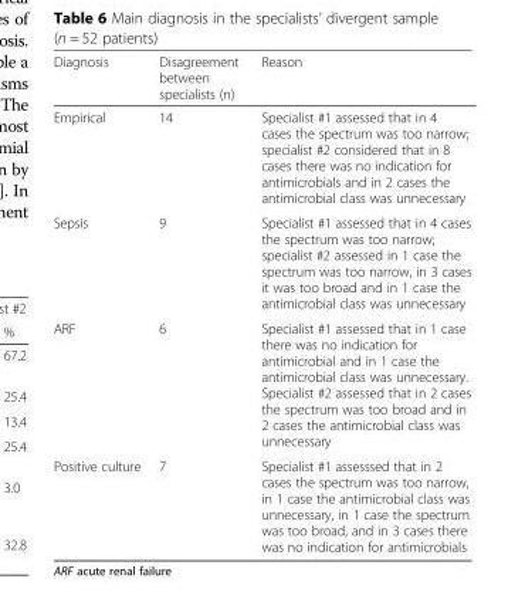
<table><thead><tr><td>Diagnosis</td><td>Disagreement between specialists (n)</td><td>Reason</td></tr></thead><tbody><tr><td>Empirical</td><td>14</td><td>Specialist #1 assessed that in 4 cases the spectrum was too narrow; specialist #2 considered that in 8 cases there was no indication for antimicrobials and in 2 cases the antimicrobial class was unnecessary</td></tr><tr><td>Sepsis</td><td>9</td><td>Specialist #1 assessed that in 4 cases the spectrum was too narrow; specialist #2 assessed in 1 case the spectrum was too narrow, in 3 cases it was too broad and in 1 case the antimicrobial class was unnecessary</td></tr><tr><td>ARF</td><td>6</td><td>Specialist #1 assessed that in 1 case there was no indication for antimicrobial and in 1 case the antimicrobial class was unnecessary. Specialist #2 assessed that in 2 cases the spectrum was too broad and in 2 cases the antimicrobial class was unnecessary</td></tr><tr><td>Positive culture</td><td>7</td><td>Specialist #1 assesssed that in 2 cases the spectrum was too narrow, in 1 case the antimicrobial class was unnecessary, in 1 case the spectrum was too broad, and in 3 cases there was no indication for antimicrobials</td></tr></tbody></table>